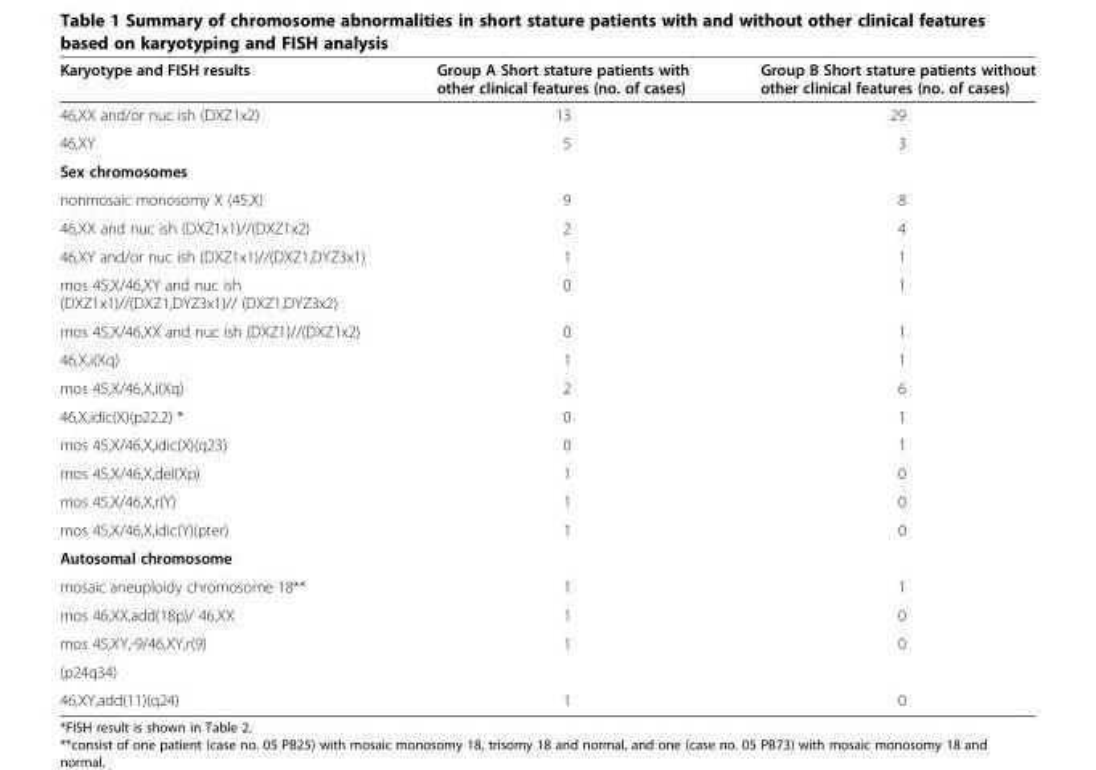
<table><thead><tr><td>Karyotype and FISH results</td><td>Group A Short stature patients with other clinical features (no. of cases)</td><td>Group B Short stature patients without other clinical features (no. of cases)</td></tr></thead><tbody><tr><td>46,XX and/or nuc ish (DXZ1x2)</td><td>13</td><td>29</td></tr><tr><td>46,XY</td><td>5</td><td>3</td></tr><tr><td colspan="3">Sex chromosomes</td></tr><tr><td>nonmosaic monosomy X (45,X)</td><td>9</td><td>8</td></tr><tr><td>46,XX and nuc ish (DXZ1x1)//(DXZ1x2)</td><td>2</td><td>4</td></tr><tr><td>46,XY and/or nuc ish (DXZ1x1)//(DXZ1,DYZ3x1)</td><td>1</td><td>1</td></tr><tr><td>mos 45,X/46,XY and nuc ish (DXZ1x1)//(DXZ1,DYZ3x1)// (DXZ1,DYZ3x2)</td><td>0</td><td>1</td></tr><tr><td>mos 45,X/46,XX and nuc ish (DXZ1)//(DXZ1x2)</td><td>0</td><td>1</td></tr><tr><td>46,X,i(Xq)</td><td>1</td><td>1</td></tr><tr><td>mos 45,X/46,X,i(Xq)</td><td>2</td><td>6</td></tr><tr><td>46,X,idic(X)(p22.2) *</td><td>0</td><td>1</td></tr><tr><td>mos 45,X/46,X,idic(X)(q23)</td><td>0</td><td>1</td></tr><tr><td>mos 45,X/46,X,del(Xp)</td><td>1</td><td>0</td></tr><tr><td>mos 45,X/46,X,r(Y)</td><td>1</td><td>0</td></tr><tr><td>mos 45,X/46,X,idic(Y)(pter)</td><td>1</td><td>0</td></tr><tr><td colspan="3">Autosomal chromosome</td></tr><tr><td>mosaic aneuploidy chromosome 18**</td><td>1</td><td>1</td></tr><tr><td>mos 46,XX,add(18p)/ 46,XX</td><td>1</td><td>0</td></tr><tr><td colspan="3">mos 45,XY,-9/46,XY,r(9) 1 0</td></tr><tr><td colspan="3">(p24q34)</td></tr><tr><td>46,XY,add(11)(q24)</td><td>1</td><td>0</td></tr></tbody></table>